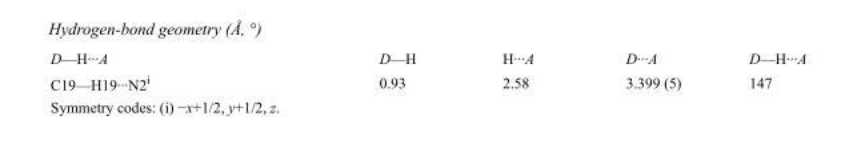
<table><tbody><tr><td>D—H···A</td><td>D—H</td><td>H···A</td><td>D···A</td><td>D—H···A</td></tr><tr><td>C19—H19···N2<sup>i</sup></td><td>0.93</td><td>2.58</td><td>3.399 (5)</td><td>147</td></tr></tbody></table>